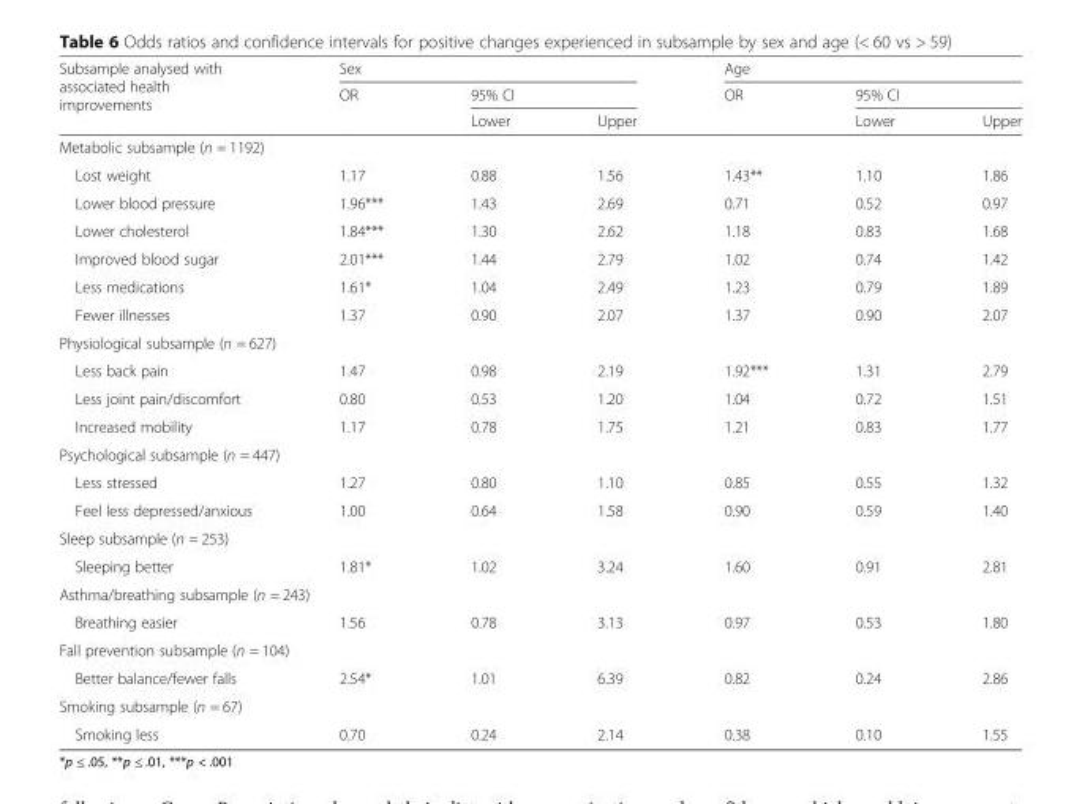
<table><thead><tr><td rowspan="3">Subsample analysed with associated health improvements</td><td colspan="3">Sex</td><td colspan="3">Age</td></tr><tr><td rowspan="2">OR</td><td colspan="2">95% CI</td><td rowspan="2">OR</td><td colspan="2">95% CI</td></tr><tr><td>Lower</td><td>Upper</td><td>Lower</td><td>Upper</td></tr></thead><tbody><tr><td colspan="7">Metabolic subsample (n = 1192)</td></tr><tr><td>Lost weight</td><td>1.17</td><td>0.88</td><td>1.56</td><td>1.43**</td><td>1.10</td><td>1.86</td></tr><tr><td>Lower blood pressure</td><td>1.96***</td><td>1.43</td><td>2.69</td><td>0.71</td><td>0.52</td><td>0.97</td></tr><tr><td>Lower cholesterol</td><td>1.84***</td><td>1.30</td><td>2.62</td><td>1.18</td><td>0.83</td><td>1.68</td></tr><tr><td>Improved blood sugar</td><td>2.01***</td><td>1.44</td><td>2.79</td><td>1.02</td><td>0.74</td><td>1.42</td></tr><tr><td>Less medications</td><td>1.61*</td><td>1.04</td><td>2.49</td><td>1.23</td><td>0.79</td><td>1.89</td></tr><tr><td>Fewer illnesses</td><td>1.37</td><td>0.90</td><td>2.07</td><td>1.37</td><td>0.90</td><td>2.07</td></tr><tr><td colspan="7">Physiological subsample (n = 627)</td></tr><tr><td>Less back pain</td><td>1.47</td><td>0.98</td><td>2.19</td><td>1.92***</td><td>1.31</td><td>2.79</td></tr><tr><td>Less joint pain/discomfort</td><td>0.80</td><td>0.53</td><td>1.20</td><td>1.04</td><td>0.72</td><td>1.51</td></tr><tr><td>Increased mobility</td><td>1.17</td><td>0.78</td><td>1.75</td><td>1.21</td><td>0.83</td><td>1.77</td></tr><tr><td colspan="7">Psychological subsample (n = 447)</td></tr><tr><td>Less stressed</td><td>1.27</td><td>0.80</td><td>1.10</td><td>0.85</td><td>0.55</td><td>1.32</td></tr><tr><td>Feel less depressed/anxious</td><td>1.00</td><td>0.64</td><td>1.58</td><td>0.90</td><td>0.59</td><td>1.40</td></tr><tr><td colspan="7">Sleep subsample (n = 253)</td></tr><tr><td>Sleeping better</td><td>1.81*</td><td>1.02</td><td>3.24</td><td>1.60</td><td>0.91</td><td>2.81</td></tr><tr><td colspan="7">Asthma/breathing subsample (n = 243)</td></tr><tr><td>Breathing easier</td><td>1.56</td><td>0.78</td><td>3.13</td><td>0.97</td><td>0.53</td><td>1.80</td></tr><tr><td colspan="7">Fall prevention subsample (n = 104)</td></tr><tr><td>Better balance/fewer falls</td><td>2.54*</td><td>1.01</td><td>6.39</td><td>0.82</td><td>0.24</td><td>2.86</td></tr><tr><td colspan="7">Smoking subsample (n = 67)</td></tr><tr><td>Smoking less</td><td>0.70</td><td>0.24</td><td>2.14</td><td>0.38</td><td>0.10</td><td>1.55</td></tr></tbody></table>